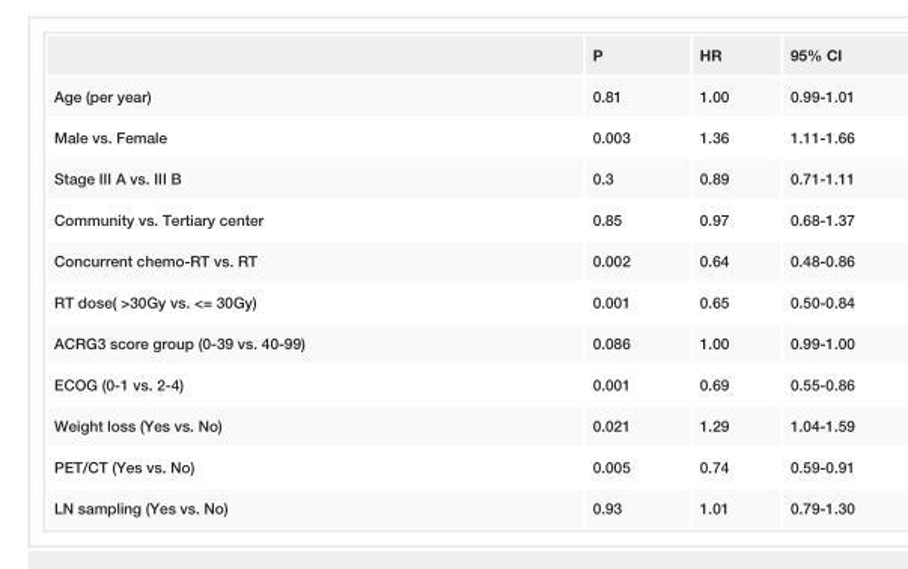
<table><thead><tr><td></td><td>P</td><td>HR</td><td>95% CI</td></tr></thead><tbody><tr><td>Age (per year)</td><td>0.81</td><td>1.00</td><td>0.99-1.01</td></tr><tr><td>Male vs. Female</td><td>0.003</td><td>1.36</td><td>1.11-1.66</td></tr><tr><td>Stage III A vs. III B</td><td>0.3</td><td>0.89</td><td>0.71-1.11</td></tr><tr><td>Community vs. Tertiary center</td><td>0.85</td><td>0.97</td><td>0.68-1.37</td></tr><tr><td>Concurrent chemo-RT vs. RT</td><td>0.002</td><td>0.64</td><td>0.48-0.86</td></tr><tr><td>RT dose( &gt;30Gy vs. &lt;= 30Gy)</td><td>0.001</td><td>0.65</td><td>0.50-0.84</td></tr><tr><td>ACRG3 score group (0-39 vs. 40-99)</td><td>0.086</td><td>1.00</td><td>0.99-1.00</td></tr><tr><td>ECOG (0-1 vs. 2-4)</td><td>0.001</td><td>0.69</td><td>0.55-0.86</td></tr><tr><td>Weight loss (Yes vs. No)</td><td>0.021</td><td>1.29</td><td>1.04-1.59</td></tr><tr><td>PET/CT (Yes vs. No)</td><td>0.005</td><td>0.74</td><td>0.59-0.91</td></tr><tr><td>LN sampling (Yes vs. No)</td><td>0.93</td><td>1.01</td><td>0.79-1.30</td></tr></tbody></table>